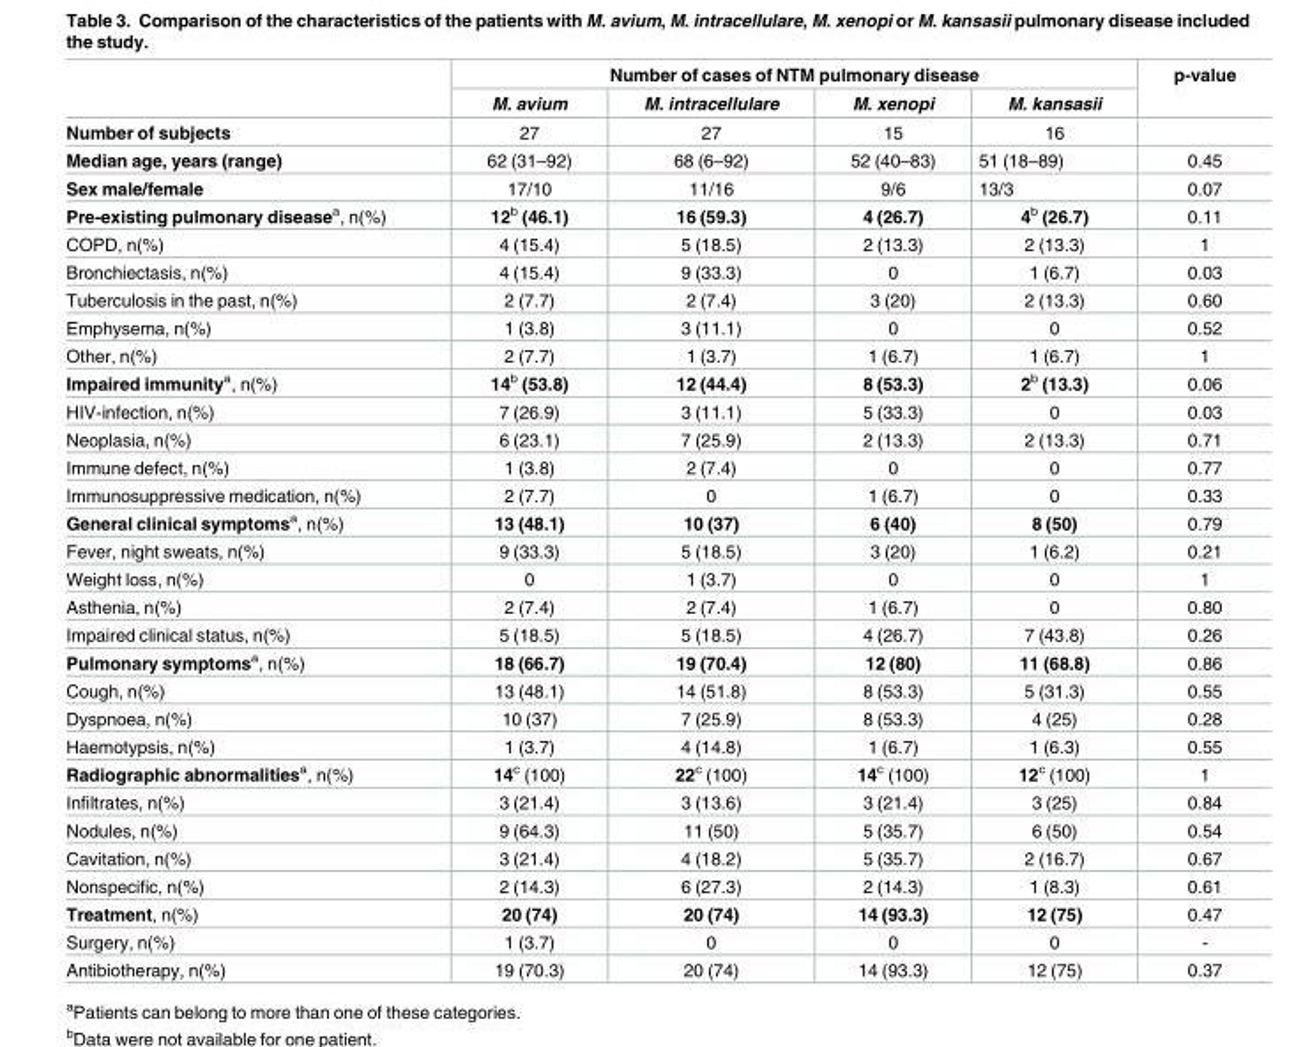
<table><thead><tr><td rowspan="2"></td><td colspan="4">Number of cases of NTM pulmonary disease</td><td rowspan="2">p-value</td></tr><tr><td>M. avium</td><td>M. intracellulare</td><td>M. xenopi</td><td>M. kansasii</td></tr></thead><tbody><tr><td>Number of subjects</td><td>27</td><td>27</td><td>15</td><td>16</td><td></td></tr><tr><td>Median age, years (range)</td><td>62 (31–92)</td><td>68 (6–92)</td><td>52 (40–83)</td><td>51 (18–89)</td><td>0.45</td></tr><tr><td>Sex male/female</td><td>17/10</td><td>11/16</td><td>9/6</td><td>13/3</td><td>0.07</td></tr><tr><td>Pre-existing pulmonary disease<sup>a</sup>, n(%)</td><td>12<sup>b</sup> (46.1)</td><td>16 (59.3)</td><td>4 (26.7)</td><td>4<sup>b</sup> (26.7)</td><td>0.11</td></tr><tr><td>COPD, n(%)</td><td>4 (15.4)</td><td>5 (18.5)</td><td>2 (13.3)</td><td>2 (13.3)</td><td>1</td></tr><tr><td>Bronchiectasis, n(%)</td><td>4 (15.4)</td><td>9 (33.3)</td><td>0</td><td>1 (6.7)</td><td>0.03</td></tr><tr><td>Tuberculosis in the past, n(%)</td><td>2 (7.7)</td><td>2 (7.4)</td><td>3 (20)</td><td>2 (13.3)</td><td>0.60</td></tr><tr><td>Emphysema, n(%)</td><td>1 (3.8)</td><td>3 (11.1)</td><td>0</td><td>0</td><td>0.52</td></tr><tr><td>Other, n(%)</td><td>2 (7.7)</td><td>1 (3.7)</td><td>1 (6.7)</td><td>1 (6.7)</td><td>1</td></tr><tr><td>Impaired immunity<sup>a</sup>, n(%)</td><td>14<sup>b</sup> (53.8)</td><td>12 (44.4)</td><td>8 (53.3)</td><td>2<sup>b</sup> (13.3)</td><td>0.06</td></tr><tr><td>HIV-infection, n(%)</td><td>7 (26.9)</td><td>3 (11.1)</td><td>5 (33.3)</td><td>0</td><td>0.03</td></tr><tr><td>Neoplasia, n(%)</td><td>6 (23.1)</td><td>7 (25.9)</td><td>2 (13.3)</td><td>2 (13.3)</td><td>0.71</td></tr><tr><td>Immune defect, n(%)</td><td>1 (3.8)</td><td>2 (7.4)</td><td>0</td><td>0</td><td>0.77</td></tr><tr><td>Immunosuppressive medication, n(%)</td><td>2 (7.7)</td><td>0</td><td>1 (6.7)</td><td>0</td><td>0.33</td></tr><tr><td>General clinical symptoms<sup>a</sup>, n(%)</td><td>13 (48.1)</td><td>10 (37)</td><td>6 (40)</td><td>8 (50)</td><td>0.79</td></tr><tr><td>Fever, night sweats, n(%)</td><td>9 (33.3)</td><td>5 (18.5)</td><td>3 (20)</td><td>1 (6.2)</td><td>0.21</td></tr><tr><td>Weight loss, n(%)</td><td>0</td><td>1 (3.7)</td><td>0</td><td>0</td><td>1</td></tr><tr><td>Asthenia, n(%)</td><td>2 (7.4)</td><td>2 (7.4)</td><td>1 (6.7)</td><td>0</td><td>0.80</td></tr><tr><td>Impaired clinical status, n(%)</td><td>5 (18.5)</td><td>5 (18.5)</td><td>4 (26.7)</td><td>7 (43.8)</td><td>0.26</td></tr><tr><td>Pulmonary symptoms<sup>a</sup>, n(%)</td><td>18 (66.7)</td><td>19 (70.4)</td><td>12 (80)</td><td>11 (68.8)</td><td>0.86</td></tr><tr><td>Cough, n(%)</td><td>13 (48.1)</td><td>14 (51.8)</td><td>8 (53.3)</td><td>5 (31.3)</td><td>0.55</td></tr><tr><td>Dyspnoea, n(%)</td><td>10 (37)</td><td>7 (25.9)</td><td>8 (53.3)</td><td>4 (25)</td><td>0.28</td></tr><tr><td>Haemotypsis, n(%)</td><td>1 (3.7)</td><td>4 (14.8)</td><td>1 (6.7)</td><td>1 (6.3)</td><td>0.55</td></tr><tr><td>Radiographic abnormalities<sup>a</sup>, n(%)</td><td>14<sup>c</sup> (100)</td><td>22<sup>c</sup> (100)</td><td>14<sup>c</sup> (100)</td><td>12<sup>c</sup> (100)</td><td>1</td></tr><tr><td>Infiltrates, n(%)</td><td>3 (21.4)</td><td>3 (13.6)</td><td>3 (21.4)</td><td>3 (25)</td><td>0.84</td></tr><tr><td>Nodules, n(%)</td><td>9 (64.3)</td><td>11 (50)</td><td>5 (35.7)</td><td>6 (50)</td><td>0.54</td></tr><tr><td>Cavitation, n(%)</td><td>3 (21.4)</td><td>4 (18.2)</td><td>5 (35.7)</td><td>2 (16.7)</td><td>0.67</td></tr><tr><td>Nonspecific, n(%)</td><td>2 (14.3)</td><td>6 (27.3)</td><td>2 (14.3)</td><td>1 (8.3)</td><td>0.61</td></tr><tr><td>Treatment, n(%)</td><td>20 (74)</td><td>20 (74)</td><td>14 (93.3)</td><td>12 (75)</td><td>0.47</td></tr><tr><td>Surgery, n(%)</td><td>1 (3.7)</td><td>0</td><td>0</td><td>0</td><td>-</td></tr><tr><td>Antibiotherapy, n(%)</td><td>19 (70.3)</td><td>20 (74)</td><td>14 (93.3)</td><td>12 (75)</td><td>0.37</td></tr></tbody></table>